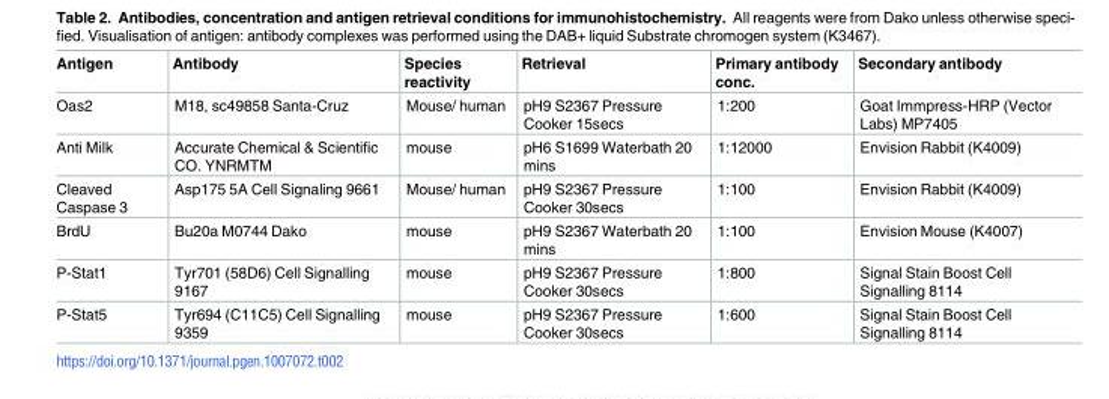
<table><thead><tr><td>Antigen</td><td>Antibody</td><td>Species reactivity</td><td>Retrieval</td><td>Primary antibody conc.</td><td>Secondary antibody</td></tr></thead><tbody><tr><td>Oas2</td><td>M18, sc49858 Santa-Cruz</td><td>Mouse/ human</td><td>pH9 S2367 Pressure Cooker 15secs</td><td>1:200</td><td>Goat Immpress-HRP (Vector Labs) MP7405</td></tr><tr><td>Anti Milk</td><td>Accurate Chemical &amp; Scientific CO. YNRMTM</td><td>mouse</td><td>pH6 S1699 Waterbath 20 mins</td><td>1:12000</td><td>Envision Rabbit (K4009)</td></tr><tr><td>Cleaved Caspase 3</td><td>Asp175 5A Cell Signaling 9661</td><td>Mouse/ human</td><td>pH9 S2367 Pressure Cooker 30secs</td><td>1:100</td><td>Envision Rabbit (K4009)</td></tr><tr><td>BrdU</td><td>Bu20a M0744 Dako</td><td>mouse</td><td>pH9 S2367 Waterbath 20 mins</td><td>1:100</td><td>Envision Mouse (K4007)</td></tr><tr><td>P-Stat1</td><td>Tyr701 (58D6) Cell Signalling 9167</td><td>mouse</td><td>pH9 S2367 Pressure Cooker 30secs</td><td>1:800</td><td>Signal Stain Boost Cell Signalling 8114</td></tr><tr><td>P-Stat5</td><td>Tyr694 (C11C5) Cell Signalling 9359</td><td>mouse</td><td>pH9 S2367 Pressure Cooker 30secs</td><td>1:600</td><td>Signal Stain Boost Cell Signalling 8114</td></tr></tbody></table>